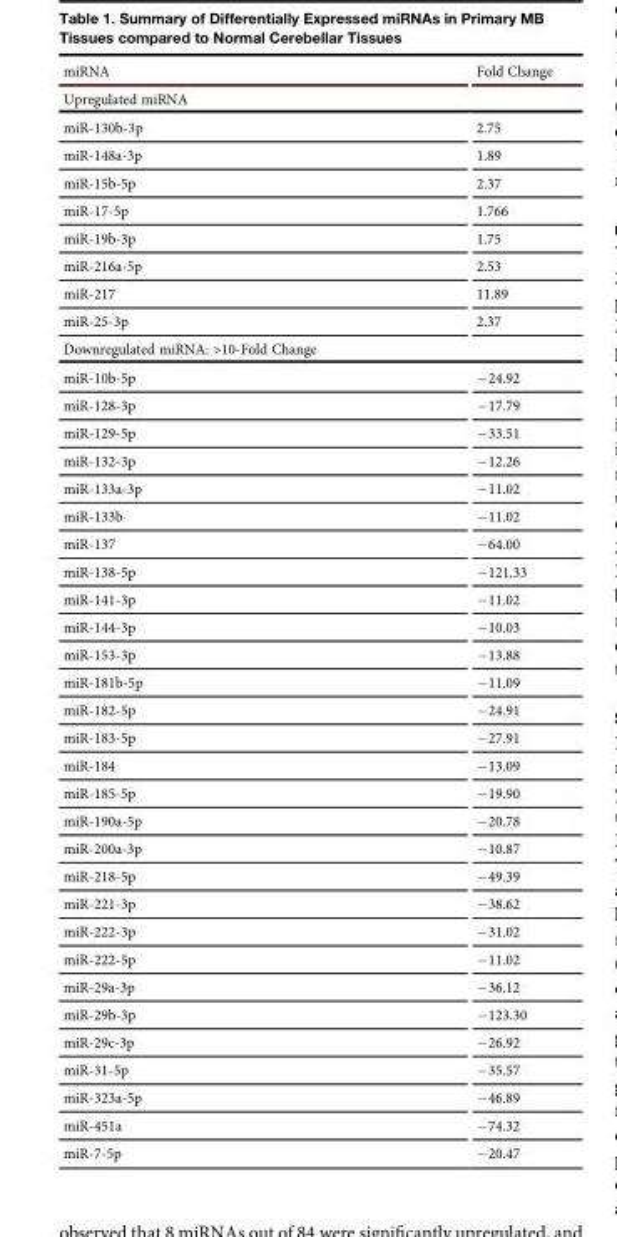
<table><thead><tr><td>miRNA</td><td>Fold Change</td></tr></thead><tbody><tr><td colspan="2">Upregulated miRNA</td></tr><tr><td>miR-130b-3p</td><td>2.75</td></tr><tr><td>miR-148a-3p</td><td>1.89</td></tr><tr><td>miR-15b-5p</td><td>2.37</td></tr><tr><td>miR-17-5p</td><td>1.766</td></tr><tr><td>miR-19b-3p</td><td>1.75</td></tr><tr><td>miR-216a-5p</td><td>2.53</td></tr><tr><td>miR-217</td><td>11.89</td></tr><tr><td>miR-25-3p</td><td>2.37</td></tr><tr><td colspan="2">Downregulated miRNA: &gt;10-Fold Change</td></tr><tr><td>miR-10b-5p</td><td>−24.92</td></tr><tr><td>miR-128-3p</td><td>−17.79</td></tr><tr><td>miR-129-5p</td><td>−33.51</td></tr><tr><td>miR-132-3p</td><td>−12.26</td></tr><tr><td>miR-133a-3p</td><td>−11.02</td></tr><tr><td>miR-133b</td><td>−11.02</td></tr><tr><td>miR-137</td><td>−64.00</td></tr><tr><td>miR-138-5p</td><td>−121.33</td></tr><tr><td>miR-141-3p</td><td>−11.02</td></tr><tr><td>miR-144-3p</td><td>−10.03</td></tr><tr><td>miR-153-3p</td><td>−13.88</td></tr><tr><td>miR-181b-5p</td><td>−11.09</td></tr><tr><td>miR-182-5p</td><td>−24.91</td></tr><tr><td>miR-183-5p</td><td>−27.91</td></tr><tr><td>miR-184</td><td>−13.09</td></tr><tr><td>miR-185-5p</td><td>−19.90</td></tr><tr><td>miR-190a-5p</td><td>−20.78</td></tr><tr><td>miR-200a-3p</td><td>−10.87</td></tr><tr><td>miR-218-5p</td><td>−49.39</td></tr><tr><td>miR-221-3p</td><td>−38.62</td></tr><tr><td>miR-222-3p</td><td>−31.02</td></tr><tr><td>miR-222-5p</td><td>−11.02</td></tr><tr><td>miR-29a-3p</td><td>−36.12</td></tr><tr><td>miR-29b-3p</td><td>−123.30</td></tr><tr><td>miR-29c-3p</td><td>−26.92</td></tr><tr><td>miR-31-5p</td><td>−35.57</td></tr><tr><td>miR-323a-5p</td><td>−46.89</td></tr><tr><td>miR-451a</td><td>−74.32</td></tr><tr><td>miR-7-5p</td><td>−20.47</td></tr></tbody></table>